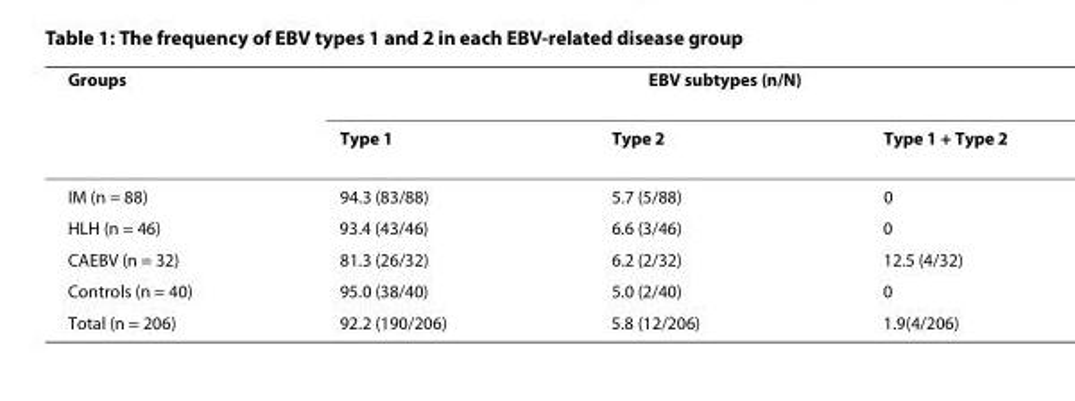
<table><thead><tr><td rowspan="2">Groups</td><td colspan="3">EBV subtypes (n/N)</td></tr><tr><td>Type 1</td><td>Type 2</td><td>Type 1 + Type 2</td></tr></thead><tbody><tr><td>IM (n = 88)</td><td>94.3 (83/88)</td><td>5.7 (5/88)</td><td>0</td></tr><tr><td>HLH (n = 46)</td><td>93.4 (43/46)</td><td>6.6 (3/46)</td><td>0</td></tr><tr><td>CAEBV (n = 32)</td><td>81.3 (26/32)</td><td>6.2 (2/32)</td><td>12.5 (4/32)</td></tr><tr><td>Controls (n = 40)</td><td>95.0 (38/40)</td><td>5.0 (2/40)</td><td>0</td></tr><tr><td>Total (n = 206)</td><td>92.2 (190/206)</td><td>5.8 (12/206)</td><td>1.9(4/206)</td></tr></tbody></table>